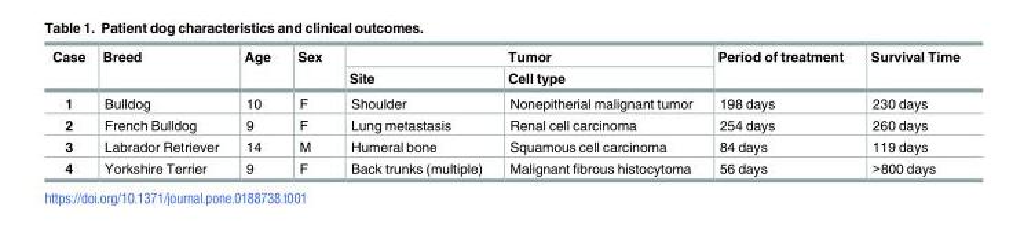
<table><thead><tr><td rowspan="2">Case</td><td rowspan="2">Breed</td><td rowspan="2">Age</td><td rowspan="2">Sex</td><td colspan="2">Tumor</td><td rowspan="2">Period of treatment</td><td rowspan="2">Survival Time</td></tr><tr><td>Site</td><td>Cell type</td></tr></thead><tbody><tr><td>1</td><td>Bulldog</td><td>10</td><td>F</td><td>Shoulder</td><td>Nonepitherial malignant tumor</td><td>198 days</td><td>230 days</td></tr><tr><td>2</td><td>French Bulldog</td><td>9</td><td>F</td><td>Lung metastasis</td><td>Renal cell carcinoma</td><td>254 days</td><td>260 days</td></tr><tr><td>3</td><td>Labrador Retriever</td><td>14</td><td>M</td><td>Humeral bone</td><td>Squamous cell carcinoma</td><td>84 days</td><td>119 days</td></tr><tr><td>4</td><td>Yorkshire Terrier</td><td>9</td><td>F</td><td>Back trunks (multiple)</td><td>Malignant fibrous histocytoma</td><td>56 days</td><td>&gt;800 days</td></tr></tbody></table>